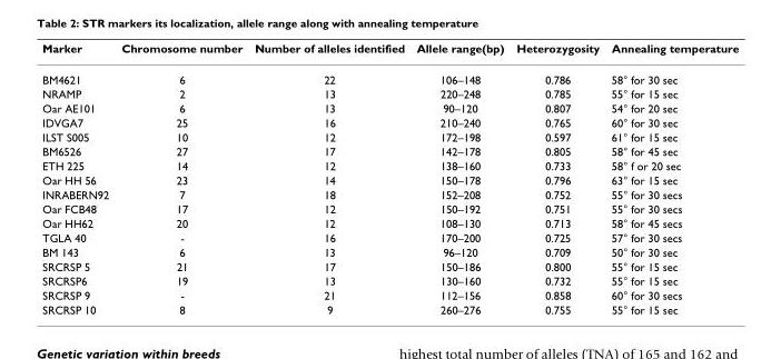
<table><thead><tr><td>Marker</td><td>Chromosome number</td><td>Number of alleles identified</td><td>Allele range(bp)</td><td>Heterozygosity</td><td>Annealing temperature</td></tr></thead><tbody><tr><td>BM4621</td><td>6</td><td>22</td><td>106–148</td><td>0.786</td><td>58° for 30 sec</td></tr><tr><td>NRAMP</td><td>2</td><td>13</td><td>220–248</td><td>0.785</td><td>55° for 15 sec</td></tr><tr><td>Oar AE101</td><td>6</td><td>13</td><td>90–120</td><td>0.807</td><td>54° for 20 sec</td></tr><tr><td>IDVGA7</td><td>25</td><td>16</td><td>210–240</td><td>0.765</td><td>60° for 30 sec</td></tr><tr><td>ILST S005</td><td>10</td><td>12</td><td>172–198</td><td>0.597</td><td>61° for 15 sec</td></tr><tr><td>BM6526</td><td>27</td><td>17</td><td>142–178</td><td>0.805</td><td>58° for 45 sec</td></tr><tr><td>ETH 225</td><td>14</td><td>12</td><td>138–160</td><td>0.733</td><td>58° f or 20 sec</td></tr><tr><td>Oar HH 56</td><td>23</td><td>14</td><td>150–178</td><td>0.796</td><td>63° for 15 sec</td></tr><tr><td>INRABERN92</td><td>7</td><td>18</td><td>152–208</td><td>0.752</td><td>55° for 30 secs</td></tr><tr><td>Oar FCB48</td><td>17</td><td>12</td><td>150–192</td><td>0.751</td><td>55° for 30 secs</td></tr><tr><td>Oar HH62</td><td>20</td><td>12</td><td>108–130</td><td>0.713</td><td>58° for 45 secs</td></tr><tr><td>TGLA 40</td><td>-</td><td>16</td><td>170–200</td><td>0.725</td><td>57° for 30 secs</td></tr><tr><td>BM 143</td><td>6</td><td>13</td><td>96–120</td><td>0.709</td><td>50° for 30 sec</td></tr><tr><td>SRCRSP 5</td><td>21</td><td>17</td><td>150–186</td><td>0.800</td><td>55° for 15 sec</td></tr><tr><td>SRCRSP6</td><td>19</td><td>13</td><td>130–160</td><td>0.732</td><td>55° for 15 sec</td></tr><tr><td>SRCRSP 9</td><td>-</td><td>21</td><td>112–156</td><td>0.858</td><td>60° for 30 secs</td></tr><tr><td>SRCRSP 10</td><td>8</td><td>9</td><td>260–276</td><td>0.755</td><td>55° for 15 sec</td></tr></tbody></table>